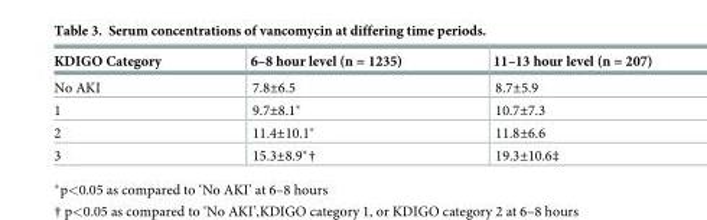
<table><thead><tr><td>KDIGO Category</td><td>6–8 hour level (n = 1235)</td><td>11–13 hour level (n = 207)</td></tr></thead><tbody><tr><td>No AKI</td><td>7.8±6.5</td><td>8.7±5.9</td></tr><tr><td>1</td><td>9.7±8.1*</td><td>10.7±7.3</td></tr><tr><td>2</td><td>11.4±10.1*</td><td>11.8±6.6</td></tr><tr><td>3</td><td>15.3±8.9*†</td><td>19.3±10.6‡</td></tr></tbody></table>